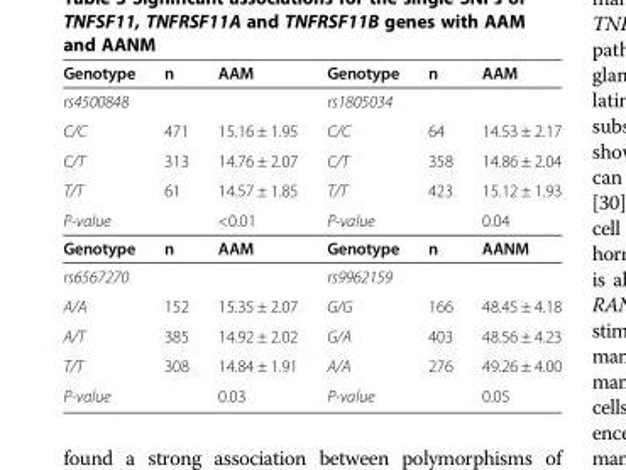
<table><tbody><tr><td>Genotype</td><td>n</td><td>AAM</td><td>Genotype</td><td>n</td><td>AAM</td></tr><tr><td colspan="3">rs4500848</td><td colspan="3">rs1805034</td></tr><tr><td>C/C</td><td>471</td><td>15.16 ± 1.95</td><td>C/C</td><td>64</td><td>14.53 ± 2.17</td></tr><tr><td>C/T</td><td>313</td><td>14.76 ± 2.07</td><td>C/T</td><td>358</td><td>14.86 ± 2.04</td></tr><tr><td>T/T</td><td>61</td><td>14.57 ± 1.85</td><td>T/T</td><td>423</td><td>15.12 ± 1.93</td></tr><tr><td>P-value</td><td></td><td>&lt;0.01</td><td>P-value</td><td></td><td>0.04</td></tr><tr><td>Genotype</td><td>n</td><td>AAM</td><td>Genotype</td><td>n</td><td>AANM</td></tr><tr><td colspan="3">rs6567270</td><td colspan="3">rs9962159</td></tr><tr><td>A/A</td><td>152</td><td>15.35 ± 2.07</td><td>G/G</td><td>166</td><td>48.45 ± 4.18</td></tr><tr><td>A/T</td><td>385</td><td>14.92 ± 2.02</td><td>G/A</td><td>403</td><td>48.56 ± 4.23</td></tr><tr><td>T/T</td><td>308</td><td>14.84 ± 1.91</td><td>A/A</td><td>276</td><td>49.26 ± 4.00</td></tr><tr><td>P-value</td><td></td><td>0.03</td><td>P-value</td><td></td><td>0.05</td></tr></tbody></table>